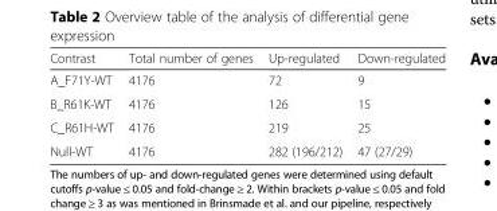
<table><thead><tr><td>Contrast</td><td>Total number of genes</td><td>Up-regulated</td><td>Down-regulated</td></tr></thead><tbody><tr><td>A_F71Y-WT</td><td>4176</td><td>72</td><td>9</td></tr><tr><td>B_R61K-WT</td><td>4176</td><td>126</td><td>15</td></tr><tr><td>C_R61H-WT</td><td>4176</td><td>219</td><td>25</td></tr><tr><td>Null-WT</td><td>4176</td><td>282 (196/212)</td><td>47 (27/29)</td></tr></tbody></table>